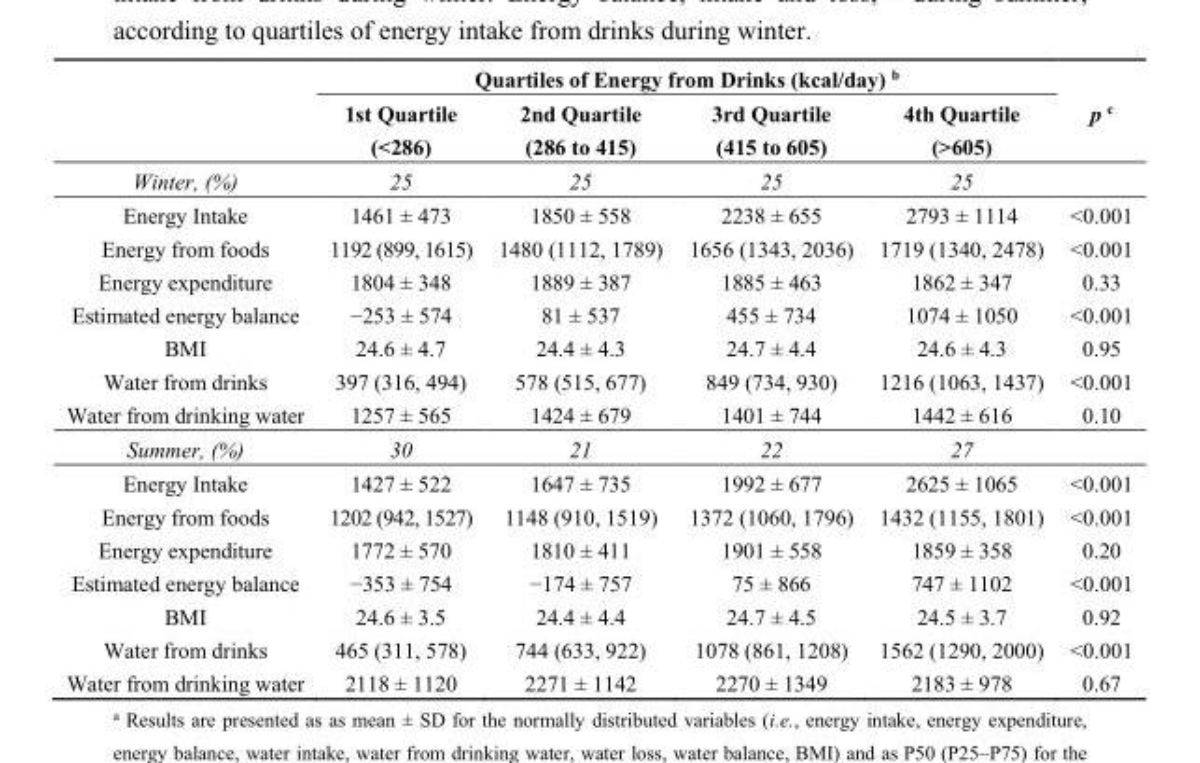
<table><thead><tr><td rowspan="3"></td><td colspan="4">Quartiles of Energy from Drinks (kcal/day) <sup>b</sup></td><td rowspan="3">p <sup>c</sup></td></tr><tr><td rowspan="2">1st Quartile (&lt;286)</td><td rowspan="2">2nd Quartile (286 to 415)</td><td rowspan="2">3rd Quartile (415 to 605)</td><td rowspan="2">4th Quartile (&gt;605)</td></tr><tr></tr></thead><tbody><tr><td>Winter, (%)</td><td>25</td><td>25</td><td>25</td><td>25</td><td></td></tr><tr><td>Energy Intake</td><td>1461 ± 473</td><td>1850 ± 558</td><td>2238 ± 655</td><td>2793 ± 1114</td><td>&lt;0.001</td></tr><tr><td>Energy from foods</td><td>1192 (899, 1615)</td><td>1480 (1112, 1789)</td><td>1656 (1343, 2036)</td><td>1719 (1340, 2478)</td><td>&lt;0.001</td></tr><tr><td>Energy expenditure</td><td>1804 ± 348</td><td>1889 ± 387</td><td>1885 ± 463</td><td>1862 ± 347</td><td>0.33</td></tr><tr><td>Estimated energy balance</td><td>−253 ± 574</td><td>81 ± 537</td><td>455 ± 734</td><td>1074 ± 1050</td><td>&lt;0.001</td></tr><tr><td>BMI</td><td>24.6 ± 4.7</td><td>24.4 ± 4.3</td><td>24.7 ± 4.4</td><td>24.6 ± 4.3</td><td>0.95</td></tr><tr><td>Water from drinks</td><td>397 (316, 494)</td><td>578 (515, 677)</td><td>849 (734, 930)</td><td>1216 (1063, 1437)</td><td>&lt;0.001</td></tr><tr><td>Water from drinking water</td><td>1257 ± 565</td><td>1424 ± 679</td><td>1401 ± 744</td><td>1442 ± 616</td><td>0.10</td></tr><tr><td>Summer, (%)</td><td>30</td><td>21</td><td>22</td><td>27</td><td></td></tr><tr><td>Energy Intake</td><td>1427 ± 522</td><td>1647 ± 735</td><td>1992 ± 677</td><td>2625 ± 1065</td><td>&lt;0.001</td></tr><tr><td>Energy from foods</td><td>1202 (942, 1527)</td><td>1148 (910, 1519)</td><td>1372 (1060, 1796)</td><td>1432 (1155, 1801)</td><td>&lt;0.001</td></tr><tr><td>Energy expenditure</td><td>1772 ± 570</td><td>1810 ± 411</td><td>1901 ± 558</td><td>1859 ± 358</td><td>0.20</td></tr><tr><td>Estimated energy balance</td><td>−353 ± 754</td><td>−174 ± 757</td><td>75 ± 866</td><td>747 ± 1102</td><td>&lt;0.001</td></tr><tr><td>BMI</td><td>24.6 ± 3.5</td><td>24.4 ± 4.4</td><td>24.7 ± 4.5</td><td>24.5 ± 3.7</td><td>0.92</td></tr><tr><td>Water from drinks</td><td>465 (311, 578)</td><td>744 (633, 922)</td><td>1078 (861, 1208)</td><td>1562 (1290, 2000)</td><td>&lt;0.001</td></tr><tr><td>Water from drinking water</td><td>2118 ± 1120</td><td>2271 ± 1142</td><td>2270 ± 1349</td><td>2183 ± 978</td><td>0.67</td></tr></tbody></table>